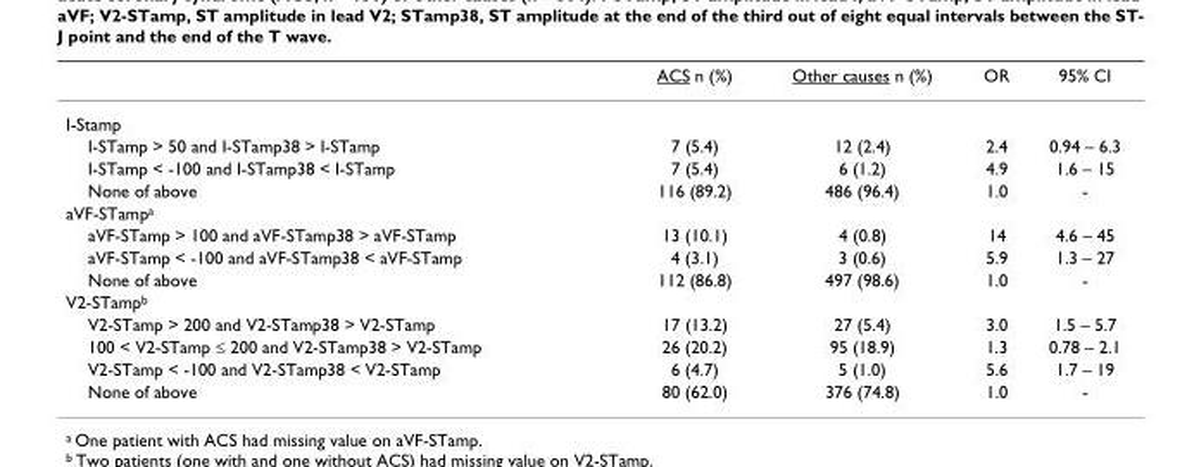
<table><thead><tr><td></td><td>ACS n (%)</td><td>Other causes n (%)</td><td>OR</td><td>95% CI</td></tr></thead><tbody><tr><td colspan="5">I-Stamp</td></tr><tr><td>I-STamp &gt; 50 and I-STamp38 &gt; I-STamp</td><td>7 (5.4)</td><td>12 (2.4)</td><td>2.4</td><td>0.94 – 6.3</td></tr><tr><td>I-STamp &lt; -100 and I-STamp38 &lt; I-STamp</td><td>7 (5.4)</td><td>6 (1.2)</td><td>4.9</td><td>1.6 – 15</td></tr><tr><td>None of above</td><td>116 (89.2)</td><td>486 (96.4)</td><td>1.0</td><td>-</td></tr><tr><td colspan="5">aVF-STamp<sup>a</sup></td></tr><tr><td>aVF-STamp &gt; 100 and aVF-STamp38 &gt; aVF-STamp</td><td>13 (10.1)</td><td>4 (0.8)</td><td>14</td><td>4.6 – 45</td></tr><tr><td>aVF-STamp &lt; -100 and aVF-STamp38 &lt; aVF-STamp</td><td>4 (3.1)</td><td>3 (0.6)</td><td>5.9</td><td>1.3 – 27</td></tr><tr><td>None of above</td><td>112 (86.8)</td><td>497 (98.6)</td><td>1.0</td><td>-</td></tr><tr><td colspan="5">V2-STamp<sup>b</sup></td></tr><tr><td>V2-STamp &gt; 200 and V2-STamp38 &gt; V2-STamp</td><td>17 (13.2)</td><td>27 (5.4)</td><td>3.0</td><td>1.5 – 5.7</td></tr><tr><td>100 &lt; V2-STamp ≤ 200 and V2-STamp38 &gt; V2-STamp</td><td>26 (20.2)</td><td>95 (18.9)</td><td>1.3</td><td>0.78 – 2.1</td></tr><tr><td>V2-STamp &lt; -100 and V2-STamp38 &lt; V2-STamp</td><td>6 (4.7)</td><td>5 (1.0)</td><td>5.6</td><td>1.7 – 19</td></tr><tr><td>None of above</td><td>80 (62.0)</td><td>376 (74.8)</td><td>1.0</td><td>-</td></tr></tbody></table>